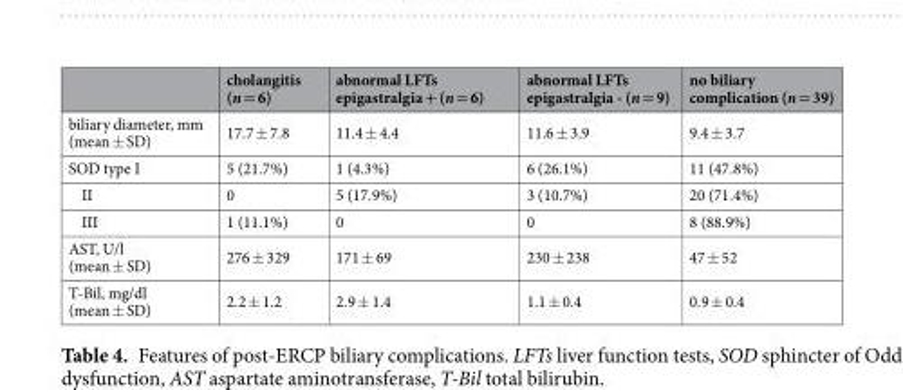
<table><thead><tr><td></td><td>cholangitis (n = 6)</td><td>abnormal LFTs epigastralgia + (n = 6)</td><td>abnormal LFTs epigastralgia - (n = 9)</td><td>no biliary complication (n = 39)</td></tr></thead><tbody><tr><td>biliary diameter, mm (mean ± SD)</td><td>17.7 ± 7.8</td><td>11.4 ± 4.4</td><td>11.6 ± 3.9</td><td>9.4 ± 3.7</td></tr><tr><td>SOD type I</td><td>5 (21.7%)</td><td>1 (4.3%)</td><td>6 (26.1%)</td><td>11 (47.8%)</td></tr><tr><td>II</td><td>0</td><td>5 (17.9%)</td><td>3 (10.7%)</td><td>20 (71.4%)</td></tr><tr><td>III</td><td>1 (11.1%)</td><td>0</td><td>0</td><td>8 (88.9%)</td></tr><tr><td>AST, U/l (mean ± SD)</td><td>276 ± 329</td><td>171 ± 69</td><td>230 ± 238</td><td>47 ± 52</td></tr><tr><td>T-Bil, mg/dl (mean ± SD)</td><td>2.2 ± 1.2</td><td>2.9 ± 1.4</td><td>1.1 ± 0.4</td><td>0.9 ± 0.4</td></tr></tbody></table>